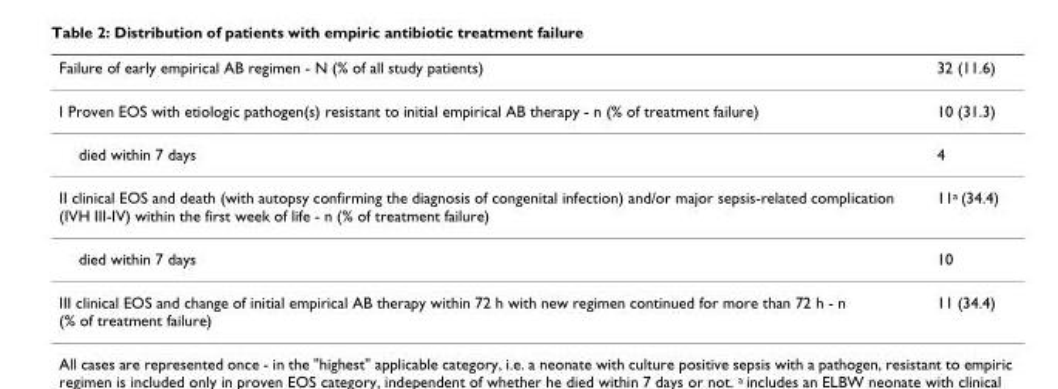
<table><thead><tr><td>Failure of early empirical AB regimen - N (% of all study patients)</td><td>32 (11.6)</td></tr></thead><tbody><tr><td>I Proven EOS with etiologic pathogen(s) resistant to initial empirical AB therapy - n (% of treatment failure)</td><td>10 (31.3)</td></tr><tr><td>died within 7 days</td><td>4</td></tr><tr><td>II clinical EOS and death (with autopsy confirming the diagnosis of congenital infection) and/or major sepsis-related complication (IVH III-IV) within the first week of life - n (% of treatment failure)</td><td>11<sup>a</sup> (34.4)</td></tr><tr><td>died within 7 days</td><td>10</td></tr><tr><td>III clinical EOS and change of initial empirical AB therapy within 72 h with new regimen continued for more than 72 h - n (% of treatment failure)</td><td>11 (34.4)</td></tr></tbody></table>